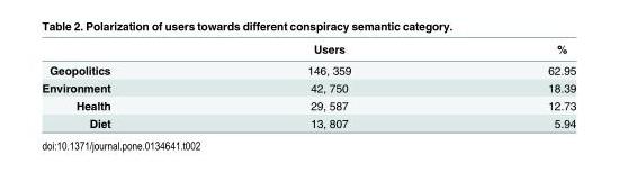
<table><thead><tr><td></td><td>Users</td><td>%</td></tr></thead><tbody><tr><td>Geopolitics</td><td>146, 359</td><td>62.95</td></tr><tr><td>Environment</td><td>42, 750</td><td>18.39</td></tr><tr><td>Health</td><td>29, 587</td><td>12.73</td></tr><tr><td>Diet</td><td>13, 807</td><td>5.94</td></tr></tbody></table>